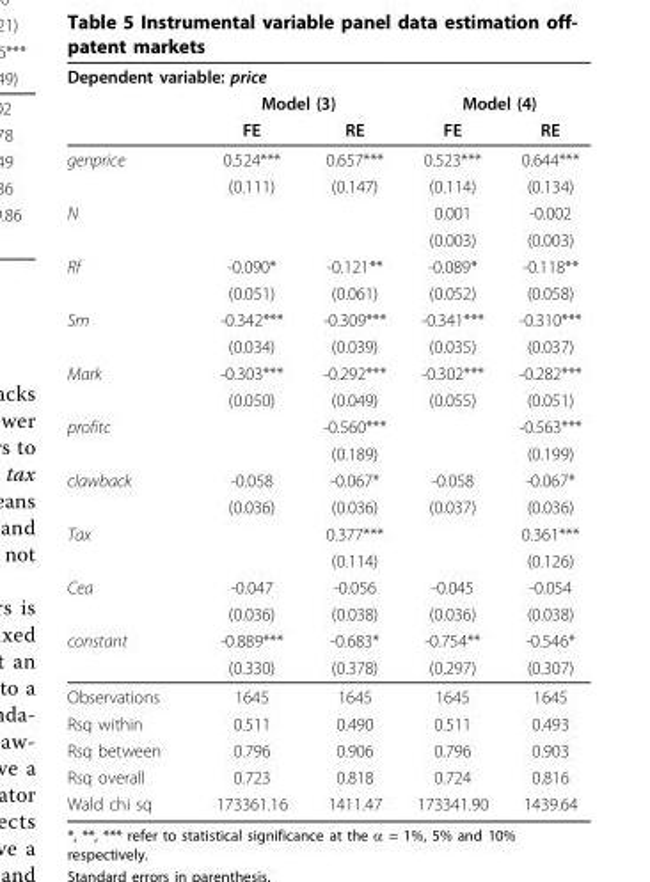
<table><thead><tr><td colspan="2">Dependent variable: price</td><td></td><td></td><td></td></tr><tr><td rowspan="2"></td><td colspan="2">Model (3)</td><td colspan="2">Model (4)</td></tr><tr><td>FE</td><td>RE</td><td>FE</td><td>RE</td></tr></thead><tbody><tr><td rowspan="2">genprice</td><td>0.524***</td><td>0.657***</td><td>0.523***</td><td>0.644***</td></tr><tr><td>(0.111)</td><td>(0.147)</td><td>(0.114)</td><td>(0.134)</td></tr><tr><td rowspan="2">N</td><td></td><td></td><td>0.001</td><td>-0.002</td></tr><tr><td></td><td></td><td>(0.003)</td><td>(0.003)</td></tr><tr><td rowspan="2">Rf</td><td>-0.090*</td><td>-0.121**</td><td>-0.089*</td><td>-0.118**</td></tr><tr><td>(0.051)</td><td>(0.061)</td><td>(0.052)</td><td>(0.058)</td></tr><tr><td rowspan="2">Sm</td><td>-0.342***</td><td>-0.309***</td><td>-0.341***</td><td>-0.310***</td></tr><tr><td>(0.034)</td><td>(0.039)</td><td>(0.035)</td><td>(0.037)</td></tr><tr><td rowspan="2">Mark</td><td>-0.303***</td><td>-0.292***</td><td>-0.302***</td><td>-0.282***</td></tr><tr><td>(0.050)</td><td>(0.049)</td><td>(0.055)</td><td>(0.051)</td></tr><tr><td rowspan="2">profitc</td><td></td><td>-0.560***</td><td></td><td>-0.563***</td></tr><tr><td></td><td>(0.189)</td><td></td><td>(0.199)</td></tr><tr><td rowspan="2">clawback</td><td>-0.058</td><td>-0.067*</td><td>-0.058</td><td>-0.067*</td></tr><tr><td>(0.036)</td><td>(0.036)</td><td>(0.037)</td><td>(0.036)</td></tr><tr><td rowspan="2">Tax</td><td></td><td>0.377***</td><td></td><td>0.361***</td></tr><tr><td></td><td>(0.114)</td><td></td><td>(0.126)</td></tr><tr><td rowspan="2">Cea</td><td>-0.047</td><td>-0.056</td><td>-0.045</td><td>-0.054</td></tr><tr><td>(0.036)</td><td>(0.038)</td><td>(0.036)</td><td>(0.038)</td></tr><tr><td rowspan="2">constant</td><td>-0.889***</td><td>-0.683*</td><td>-0.754**</td><td>-0.546*</td></tr><tr><td>(0.330)</td><td>(0.378)</td><td>(0.297)</td><td>(0.307)</td></tr><tr><td>Observations</td><td>1645</td><td>1645</td><td>1645</td><td>1645</td></tr><tr><td>Rsq within</td><td>0.511</td><td>0.490</td><td>0.511</td><td>0.493</td></tr><tr><td>Rsq between</td><td>0.796</td><td>0.906</td><td>0.796</td><td>0.903</td></tr><tr><td>Rsq overall</td><td>0.723</td><td>0.818</td><td>0.724</td><td>0.816</td></tr><tr><td>Wald chi sq</td><td>173361.16</td><td>1411.47</td><td>173341.90</td><td>1439.64</td></tr></tbody></table>